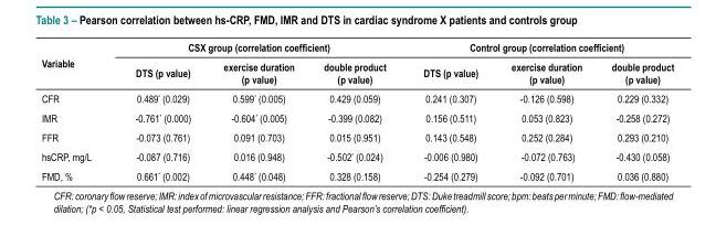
<table><thead><tr><td rowspan="2">Variable</td><td colspan="3">CSX group (correlation coefficient)</td><td colspan="3">Control group (correlation coefficient)</td></tr><tr><td>DTS (p value)</td><td>exercise duration (p value)</td><td>double product (p value)</td><td>DTS (p value)</td><td>exercise duration (p value)</td><td>double product (p value)</td></tr></thead><tbody><tr><td>CFR</td><td>0.489* (0.029)</td><td>0.599* (0.005)</td><td>0.429 (0.059)</td><td>0.241 (0.307)</td><td>-0.126 (0.598)</td><td>0.229 (0.332)</td></tr><tr><td>IMR</td><td>-0.761* (0.000)</td><td>-0.604* (0.005)</td><td>-0.399 (0.082)</td><td>0.156 (0.511)</td><td>0.053 (0.823)</td><td>-0.258 (0.272)</td></tr><tr><td>FFR</td><td>-0.073 (0.761)</td><td>0.091 (0.703)</td><td>0.015 (0.951)</td><td>0.143 (0.548)</td><td>0.252 (0.284)</td><td>0.293 (0.210)</td></tr><tr><td>hsCRP, mg/L</td><td>-0.087 (0.716)</td><td>0.016 (0.948)</td><td>-0.502* (0.024)</td><td>-0.006 (0.980)</td><td>-0.072 (0.763)</td><td>-0.430 (0.058)</td></tr><tr><td>FMD, %</td><td>0.661* (0.002)</td><td>0.448* (0.048)</td><td>0.328 (0.158)</td><td>-0.254 (0.279)</td><td>-0.092 (0.701)</td><td>0.036 (0.880)</td></tr></tbody></table>